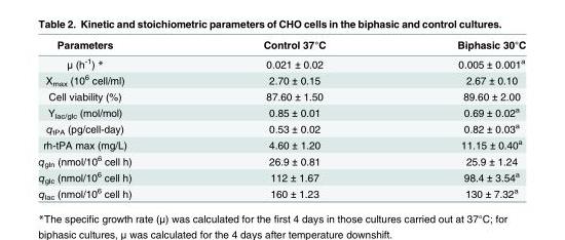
<table><thead><tr><td>Parameters</td><td>Control 37°C</td><td>Biphasic 30°C</td></tr></thead><tbody><tr><td>μ (h<sup>-1</sup>) *</td><td>0.021 ± 0.02</td><td>0.005 ± 0.001<sup>a</sup></td></tr><tr><td>X<sub>max</sub> (10<sup>6</sup> cell/ml)</td><td>2.70 ± 0.15</td><td>2.67 ± 0.10</td></tr><tr><td>Cell viability (%)</td><td>87.60 ± 1.50</td><td>89.60 ± 2.00</td></tr><tr><td>Y<sub>lac/glc</sub> (mol/mol)</td><td>0.85 ± 0.01</td><td>0.69 ± 0.02<sup>a</sup></td></tr><tr><td>q<sub>tPA</sub> (pg/cell-day)</td><td>0.53 ± 0.02</td><td>0.82 ± 0.03<sup>a</sup></td></tr><tr><td>rh-tPA max (mg/L)</td><td>4.60 ± 1.20</td><td>11.15 ± 0.40<sup>a</sup></td></tr><tr><td>q<sub>gln</sub> (nmol/10<sup>6</sup> cell h)</td><td>26.9 ± 0.81</td><td>25.9 ± 1.24</td></tr><tr><td>q<sub>glc</sub> (nmol/10<sup>6</sup> cell h)</td><td>112 ± 1.67</td><td>98.4 ± 3.54<sup>a</sup></td></tr><tr><td>q<sub>lac</sub> (nmol/10<sup>6</sup> cell h)</td><td>160 ± 1.23</td><td>130 ± 7.32<sup>a</sup></td></tr></tbody></table>